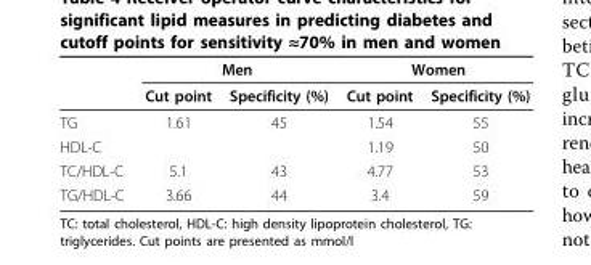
<table><thead><tr><td rowspan="2"></td><td colspan="2">Men</td><td colspan="2">Women</td></tr><tr><td>Cut point</td><td>Specificity (%)</td><td>Cut point</td><td>Specificity (%)</td></tr></thead><tbody><tr><td>TG</td><td>1.61</td><td>45</td><td>1.54</td><td>55</td></tr><tr><td>HDL-C</td><td></td><td></td><td>1.19</td><td>50</td></tr><tr><td>TC/HDL-C</td><td>5.1</td><td>43</td><td>4.77</td><td>53</td></tr><tr><td>TG/HDL-C</td><td>3.66</td><td>44</td><td>3.4</td><td>59</td></tr></tbody></table>